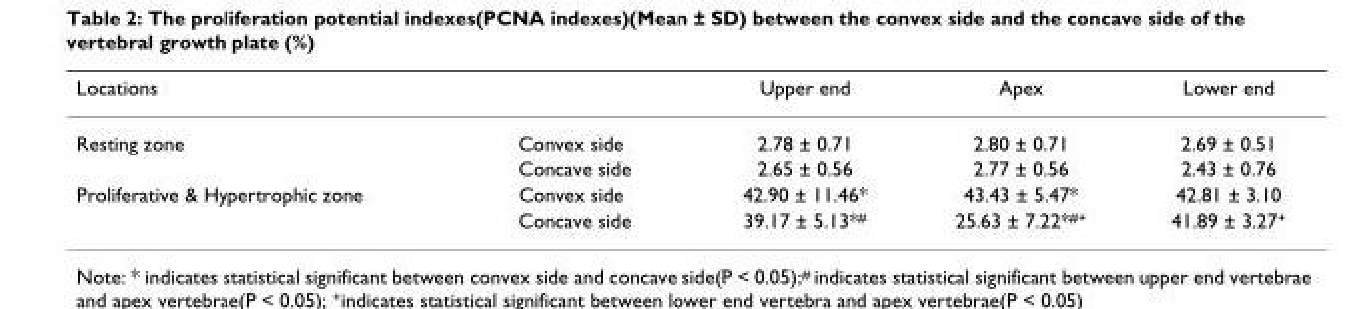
<table><thead><tr><td>Locations</td><td></td><td>Upper end</td><td>Apex</td><td>Lower end</td></tr></thead><tbody><tr><td rowspan="2">Resting zone</td><td>Convex side</td><td>2.78 ± 0.71</td><td>2.80 ± 0.71</td><td>2.69 ± 0.51</td></tr><tr><td>Concave side</td><td>2.65 ± 0.56</td><td>2.77 ± 0.56</td><td>2.43 ± 0.76</td></tr><tr><td rowspan="2">Proliferative &amp; Hypertrophic zone</td><td>Convex side</td><td>42.90 ± 11.46*</td><td>43.43 ± 5.47*</td><td>42.81 ± 3.10</td></tr><tr><td>Concave side</td><td>39.17 ± 5.13*<sup>#</sup></td><td>25.63 ± 7.22*<sup>#+</sup></td><td>41.89 ± 3.27<sup>+</sup></td></tr></tbody></table>